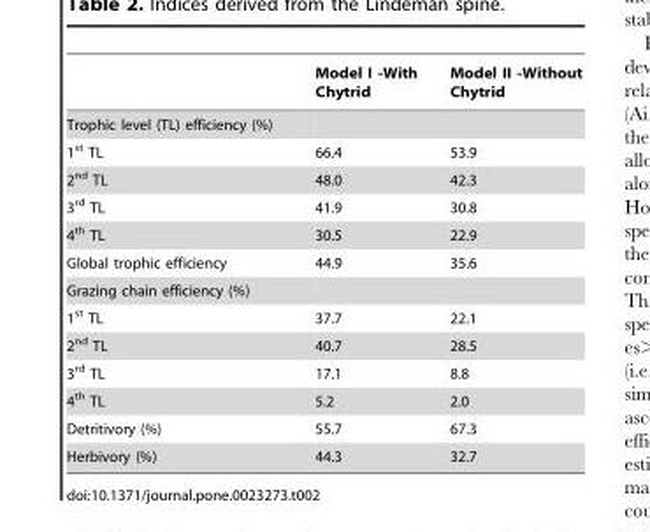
<table><thead><tr><td></td><td>Model I -With Chytrid</td><td>Model II -Without Chytrid</td></tr></thead><tbody><tr><td colspan="3">Trophic level (TL) efficiency (%)</td></tr><tr><td>1<sup>st</sup> TL</td><td>66.4</td><td>53.9</td></tr><tr><td>2<sup>nd</sup> TL</td><td>48.0</td><td>42.3</td></tr><tr><td>3<sup>rd</sup> TL</td><td>41.9</td><td>30.8</td></tr><tr><td>4<sup>th</sup> TL</td><td>30.5</td><td>22.9</td></tr><tr><td>Global trophic efficiency</td><td>44.9</td><td>35.6</td></tr><tr><td colspan="3">Grazing chain efficiency (%)</td></tr><tr><td>1<sup>st</sup> TL</td><td>37.7</td><td>22.1</td></tr><tr><td>2<sup>nd</sup> TL</td><td>40.7</td><td>28.5</td></tr><tr><td>3<sup>rd</sup> TL</td><td>17.1</td><td>8.8</td></tr><tr><td>4<sup>th</sup> TL</td><td>5.2</td><td>2.0</td></tr><tr><td>Detritivory (%)</td><td>55.7</td><td>67.3</td></tr><tr><td>Herbivory (%)</td><td>44.3</td><td>32.7</td></tr></tbody></table>